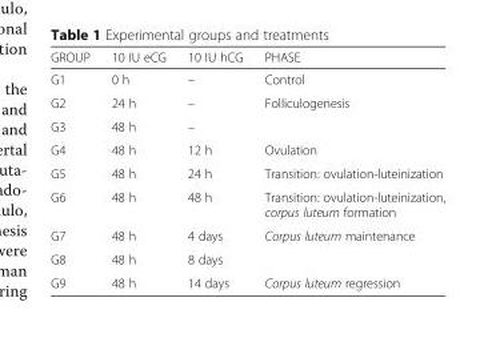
<table><thead><tr><td>GROUP</td><td>10 IU eCG</td><td>10 IU hCG</td><td>PHASE</td></tr></thead><tbody><tr><td>G1</td><td>0 h</td><td>–</td><td>Control</td></tr><tr><td>G2</td><td>24 h</td><td>–</td><td rowspan="2">Folliculogenesis</td></tr><tr><td>G3</td><td>48 h</td><td>–</td></tr><tr><td>G4</td><td>48 h</td><td>12 h</td><td>Ovulation</td></tr><tr><td>G5</td><td>48 h</td><td>24 h</td><td>Transition: ovulation-luteinization</td></tr><tr><td>G6</td><td>48 h</td><td>48 h</td><td>Transition: ovulation-luteinization, corpus luteum formation</td></tr><tr><td>G7</td><td>48 h</td><td>4 days</td><td rowspan="2">Corpus luteum maintenance</td></tr><tr><td>G8</td><td>48 h</td><td>8 days</td></tr><tr><td>G9</td><td>48 h</td><td>14 days</td><td>Corpus luteum regression</td></tr></tbody></table>